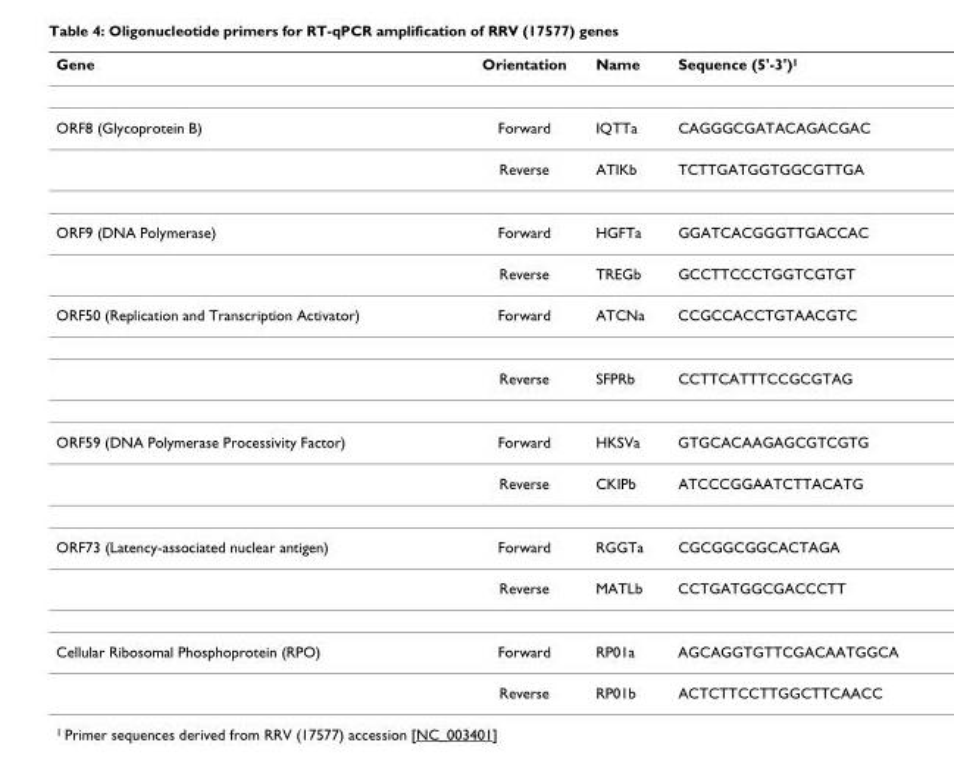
<table><thead><tr><td>Gene</td><td>Orientation</td><td>Name</td><td>Sequence (5&#x27;-3&#x27;)<sup>1</sup></td></tr></thead><tbody><tr><td rowspan="2">ORF8 (Glycoprotein B)</td><td>Forward</td><td>IQTTa</td><td>CAGGGCGATACAGACGAC</td></tr><tr><td>Reverse</td><td>ATIKb</td><td>TCTTGATGGTGGCGTTGA</td></tr><tr><td rowspan="2">ORF9 (DNA Polymerase)</td><td>Forward</td><td>HGFTa</td><td>GGATCACGGGTTGACCAC</td></tr><tr><td>Reverse</td><td>TREGb</td><td>GCCTTCCCTGGTCGTGT</td></tr><tr><td rowspan="2">ORF50 (Replication and Transcription Activator)</td><td>Forward</td><td>ATCNa</td><td>CCGCCACCTGTAACGTC</td></tr><tr><td>Reverse</td><td>SFPRb</td><td>CCTTCATTTCCGCGTAG</td></tr><tr><td rowspan="2">ORF59 (DNA Polymerase Processivity Factor)</td><td>Forward</td><td>HKSVa</td><td>GTGCACAAGAGCGTCGTG</td></tr><tr><td>Reverse</td><td>CKIPb</td><td>ATCCCGGAATCTTACATG</td></tr><tr><td rowspan="2">ORF73 (Latency-associated nuclear antigen)</td><td>Forward</td><td>RGGTa</td><td>CGCGGCGGCACTAGA</td></tr><tr><td>Reverse</td><td>MATLb</td><td>CCTGATGGCGACCCTT</td></tr><tr><td rowspan="2">Cellular Ribosomal Phosphoprotein (RPO)</td><td>Forward</td><td>RP01a</td><td>AGCAGGTGTTCGACAATGGCA</td></tr><tr><td>Reverse</td><td>RP01b</td><td>ACTCTTCCTTGGCTTCAACC</td></tr></tbody></table>